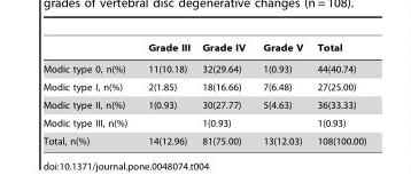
<table><thead><tr><td></td><td>Grade III</td><td>Grade IV</td><td>Grade V</td><td>Total</td></tr></thead><tbody><tr><td>Modic type 0, n(%)</td><td>11(10.18)</td><td>32(29.64)</td><td>1(0.93)</td><td>44(40.74)</td></tr><tr><td>Modic type I, n(%)</td><td>2(1.85)</td><td>18(16.66)</td><td>7(6.48)</td><td>27(25.00)</td></tr><tr><td>Modic type II, n(%)</td><td>1(0.93)</td><td>30(27.77)</td><td>5(4.63)</td><td>36(33.33)</td></tr><tr><td>Modic type III, n(%)</td><td></td><td>1(0.93)</td><td></td><td>1(0.93)</td></tr><tr><td>Total, n(%)</td><td>14(12.96)</td><td>81(75.00)</td><td>13(12.03)</td><td>108(100.00)</td></tr></tbody></table>